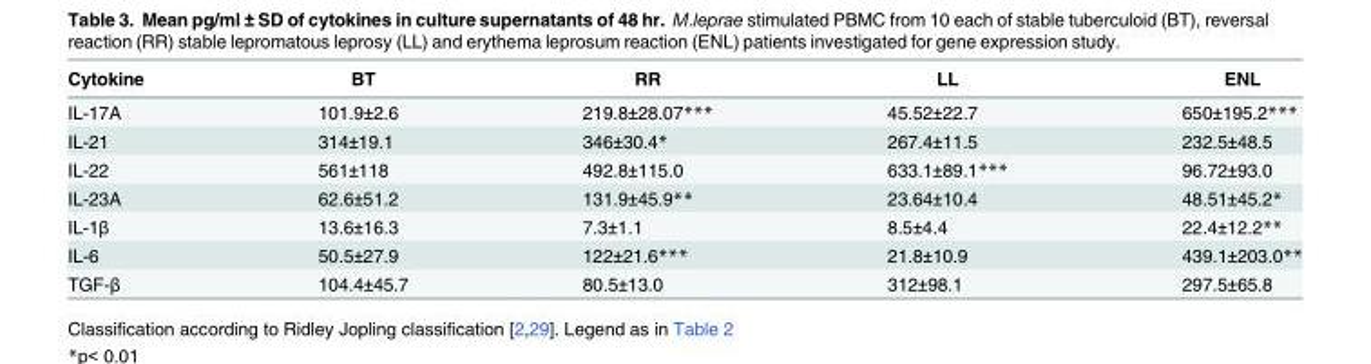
<table><thead><tr><td>Cytokine</td><td>BT</td><td>RR</td><td>LL</td><td>ENL</td></tr></thead><tbody><tr><td>IL-17A</td><td>101.9±2.6</td><td>219.8±28.07***</td><td>45.52±22.7</td><td>650±195.2***</td></tr><tr><td>IL-21</td><td>314±19.1</td><td>346±30.4*</td><td>267.4±11.5</td><td>232.5±48.5</td></tr><tr><td>IL-22</td><td>561±118</td><td>492.8±115.0</td><td>633.1±89.1***</td><td>96.72±93.0</td></tr><tr><td>IL-23A</td><td>62.6±51.2</td><td>131.9±45.9**</td><td>23.64±10.4</td><td>48.51±45.2*</td></tr><tr><td>IL-1β</td><td>13.6±16.3</td><td>7.3±1.1</td><td>8.5±4.4</td><td>22.4±12.2**</td></tr><tr><td>IL-6</td><td>50.5±27.9</td><td>122±21.6***</td><td>21.8±10.9</td><td>439.1±203.0**</td></tr><tr><td>TGF-β</td><td>104.4±45.7</td><td>80.5±13.0</td><td>312±98.1</td><td>297.5±65.8</td></tr></tbody></table>